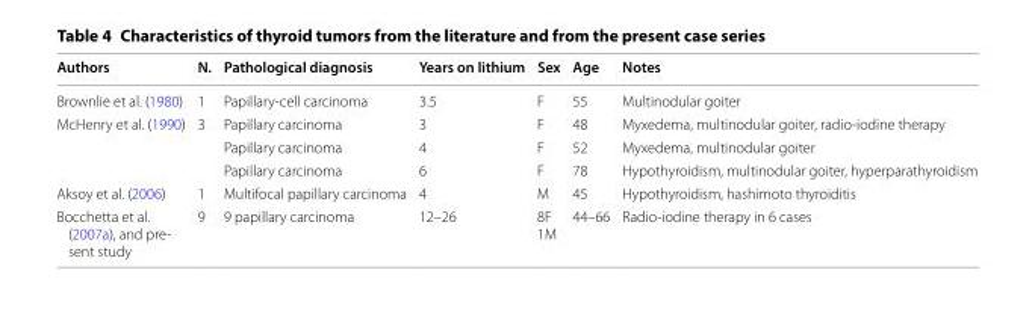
<table><thead><tr><td>Authors</td><td>N.</td><td>Pathological diagnosis</td><td>Years on lithium</td><td>Sex</td><td>Age</td><td>Notes</td></tr></thead><tbody><tr><td>Brownlie et al. (1980)</td><td>1</td><td>Papillary-cell carcinoma</td><td>3.5</td><td>F</td><td>55</td><td>Multinodular goiter</td></tr><tr><td rowspan="3">McHenry et al. (1990)</td><td rowspan="3">3</td><td>Papillary carcinoma</td><td>3</td><td>F</td><td>48</td><td>Myxedema, multinodular goiter, radio-iodine therapy</td></tr><tr><td>Papillary carcinoma</td><td>4</td><td>F</td><td>52</td><td>Myxedema, multinodular goiter</td></tr><tr><td>Papillary carcinoma</td><td>6</td><td>F</td><td>78</td><td>Hypothyroidism, multinodular goiter, hyperparathyroidism</td></tr><tr><td>Aksoy et al. (2006)</td><td>1</td><td>Multifocal papillary carcinoma</td><td>4</td><td>M</td><td>45</td><td>Hypothyroidism, hashimoto thyroiditis</td></tr><tr><td>Bocchetta et al. (2007a), and pre- sent study</td><td>9</td><td>9 papillary carcinoma</td><td>12–26</td><td>8F 1M</td><td>44–66</td><td>Radio-iodine therapy in 6 cases</td></tr></tbody></table>